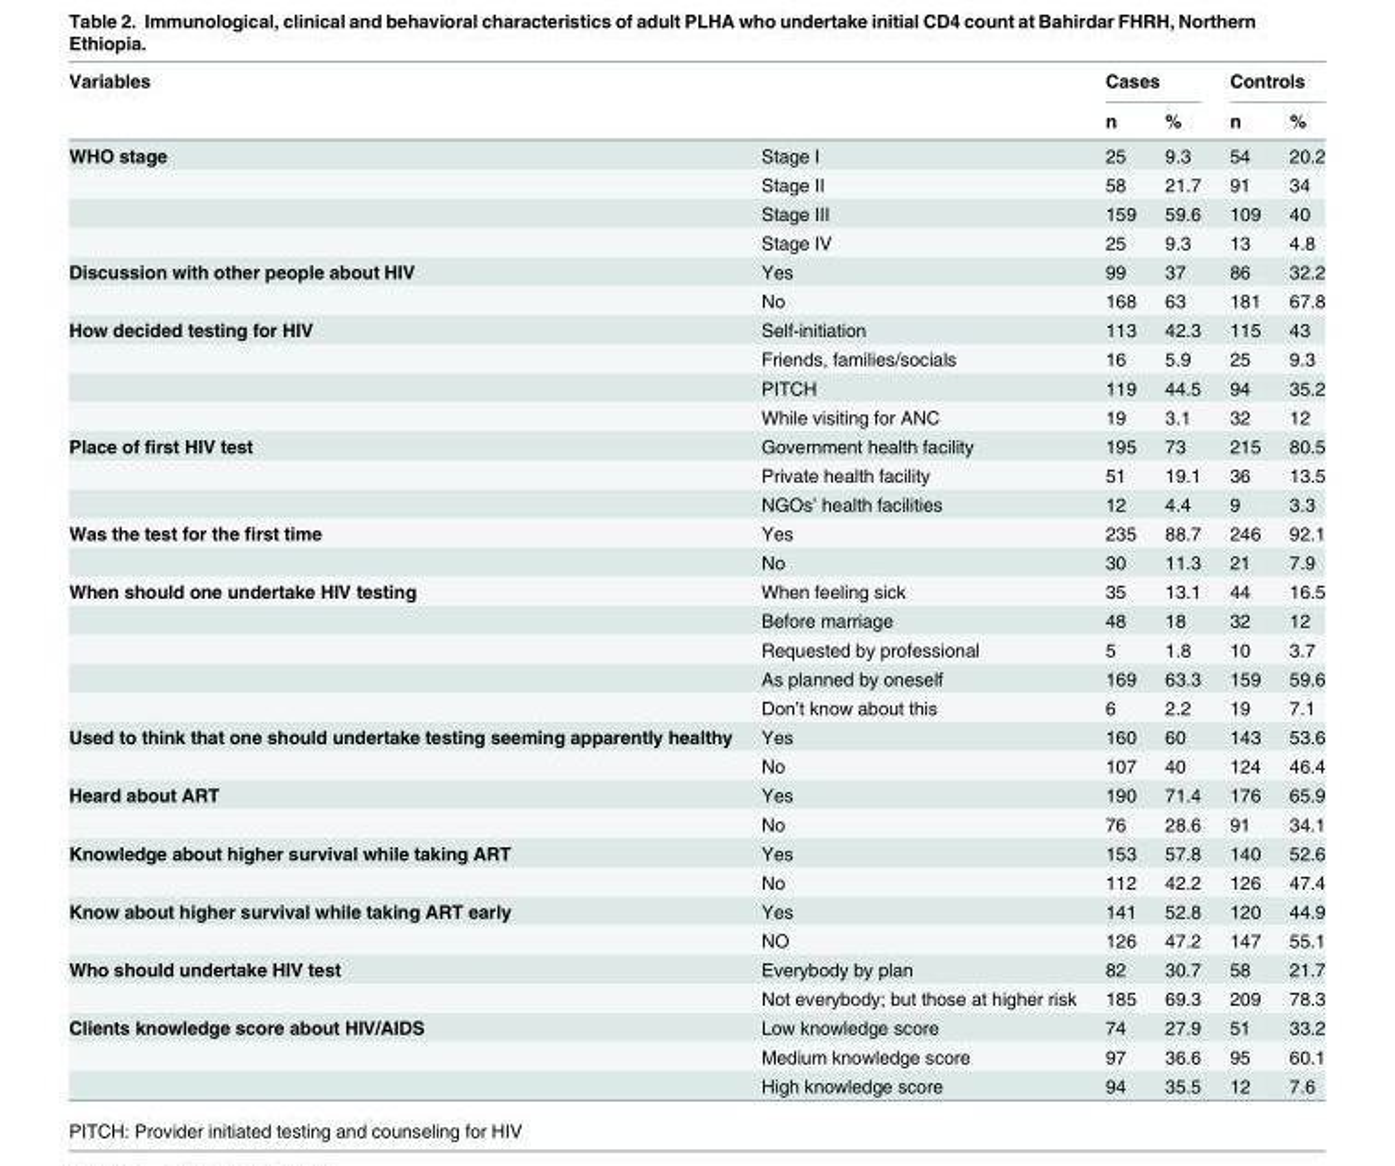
<table><thead><tr><td rowspan="2">Variables</td><td rowspan="2"></td><td colspan="2">Cases</td><td colspan="2">Controls</td></tr><tr><td>n</td><td>%</td><td>n</td><td>%</td></tr></thead><tbody><tr><td rowspan="4">WHO stage</td><td>Stage I</td><td>25</td><td>9.3</td><td>54</td><td>20.2</td></tr><tr><td>Stage II</td><td>58</td><td>21.7</td><td>91</td><td>34</td></tr><tr><td>Stage III</td><td>159</td><td>59.6</td><td>109</td><td>40</td></tr><tr><td>Stage IV</td><td>25</td><td>9.3</td><td>13</td><td>4.8</td></tr><tr><td rowspan="2">Discussion with other people about HIV</td><td>Yes</td><td>99</td><td>37</td><td>86</td><td>32.2</td></tr><tr><td>No</td><td>168</td><td>63</td><td>181</td><td>67.8</td></tr><tr><td rowspan="4">How decided testing for HIV</td><td>Self-initiation</td><td>113</td><td>42.3</td><td>115</td><td>43</td></tr><tr><td>Friends, families/socials</td><td>16</td><td>5.9</td><td>25</td><td>9.3</td></tr><tr><td>PITCH</td><td>119</td><td>44.5</td><td>94</td><td>35.2</td></tr><tr><td>While visiting for ANC</td><td>19</td><td>3.1</td><td>32</td><td>12</td></tr><tr><td rowspan="3">Place of first HIV test</td><td>Government health facility</td><td>195</td><td>73</td><td>215</td><td>80.5</td></tr><tr><td>Private health facility</td><td>51</td><td>19.1</td><td>36</td><td>13.5</td></tr><tr><td>NGOs’ health facilities</td><td>12</td><td>4.4</td><td>9</td><td>3.3</td></tr><tr><td rowspan="2">Was the test for the first time</td><td>Yes</td><td>235</td><td>88.7</td><td>246</td><td>92.1</td></tr><tr><td>No</td><td>30</td><td>11.3</td><td>21</td><td>7.9</td></tr><tr><td rowspan="5">When should one undertake HIV testing</td><td>When feeling sick</td><td>35</td><td>13.1</td><td>44</td><td>16.5</td></tr><tr><td>Before marriage</td><td>48</td><td>18</td><td>32</td><td>12</td></tr><tr><td>Requested by professional</td><td>5</td><td>1.8</td><td>10</td><td>3.7</td></tr><tr><td>As planned by oneself</td><td>169</td><td>63.3</td><td>159</td><td>59.6</td></tr><tr><td>Don’t know about this</td><td>6</td><td>2.2</td><td>19</td><td>7.1</td></tr><tr><td rowspan="2">Used to think that one should undertake testing seeming apparently healthy</td><td>Yes</td><td>160</td><td>60</td><td>143</td><td>53.6</td></tr><tr><td>No</td><td>107</td><td>40</td><td>124</td><td>46.4</td></tr><tr><td rowspan="2">Heard about ART</td><td>Yes</td><td>190</td><td>71.4</td><td>176</td><td>65.9</td></tr><tr><td>No</td><td>76</td><td>28.6</td><td>91</td><td>34.1</td></tr><tr><td rowspan="2">Knowledge about higher survival while taking ART</td><td>Yes</td><td>153</td><td>57.8</td><td>140</td><td>52.6</td></tr><tr><td>No</td><td>112</td><td>42.2</td><td>126</td><td>47.4</td></tr><tr><td rowspan="2">Know about higher survival while taking ART early</td><td>Yes</td><td>141</td><td>52.8</td><td>120</td><td>44.9</td></tr><tr><td>NO</td><td>126</td><td>47.2</td><td>147</td><td>55.1</td></tr><tr><td rowspan="2">Who should undertake HIV test</td><td>Everybody by plan</td><td>82</td><td>30.7</td><td>58</td><td>21.7</td></tr><tr><td>Not everybody; but those at higher risk</td><td>185</td><td>69.3</td><td>209</td><td>78.3</td></tr><tr><td rowspan="3">Clients knowledge score about HIV/AIDS</td><td>Low knowledge score</td><td>74</td><td>27.9</td><td>51</td><td>33.2</td></tr><tr><td>Medium knowledge score</td><td>97</td><td>36.6</td><td>95</td><td>60.1</td></tr><tr><td>High knowledge score</td><td>94</td><td>35.5</td><td>12</td><td>7.6</td></tr></tbody></table>